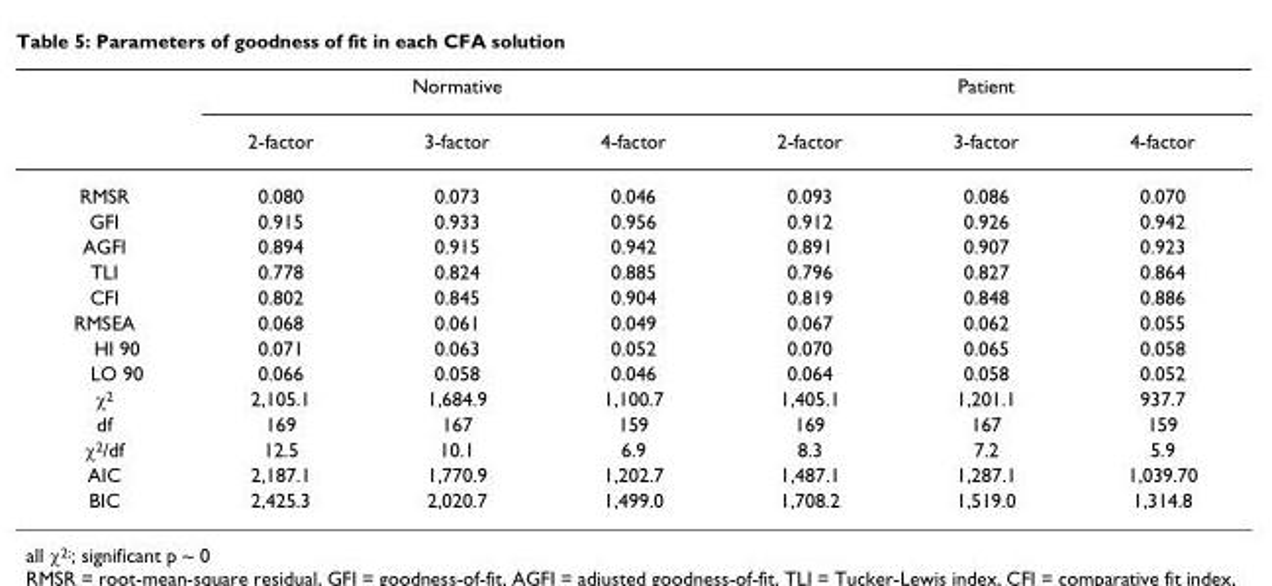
<table><thead><tr><td rowspan="2"></td><td colspan="3">Normative</td><td colspan="3">Patient</td></tr><tr><td>2-factor</td><td>3-factor</td><td>4-factor</td><td>2-factor</td><td>3-factor</td><td>4-factor</td></tr></thead><tbody><tr><td>RMSR</td><td>0.080</td><td>0.073</td><td>0.046</td><td>0.093</td><td>0.086</td><td>0.070</td></tr><tr><td>GFI</td><td>0.915</td><td>0.933</td><td>0.956</td><td>0.912</td><td>0.926</td><td>0.942</td></tr><tr><td>AGFI</td><td>0.894</td><td>0.915</td><td>0.942</td><td>0.891</td><td>0.907</td><td>0.923</td></tr><tr><td>TLI</td><td>0.778</td><td>0.824</td><td>0.885</td><td>0.796</td><td>0.827</td><td>0.864</td></tr><tr><td>CFI</td><td>0.802</td><td>0.845</td><td>0.904</td><td>0.819</td><td>0.848</td><td>0.886</td></tr><tr><td>RMSEA</td><td>0.068</td><td>0.061</td><td>0.049</td><td>0.067</td><td>0.062</td><td>0.055</td></tr><tr><td>HI 90</td><td>0.071</td><td>0.063</td><td>0.052</td><td>0.070</td><td>0.065</td><td>0.058</td></tr><tr><td>LO 90</td><td>0.066</td><td>0.058</td><td>0.046</td><td>0.064</td><td>0.058</td><td>0.052</td></tr><tr><td>χ<sup>2</sup></td><td>2,105.1</td><td>1,684.9</td><td>1,100.7</td><td>1,405.1</td><td>1,201.1</td><td>937.7</td></tr><tr><td>df</td><td>169</td><td>167</td><td>159</td><td>169</td><td>167</td><td>159</td></tr><tr><td>χ<sup>2</sup>/df</td><td>12.5</td><td>10.1</td><td>6.9</td><td>8.3</td><td>7.2</td><td>5.9</td></tr><tr><td>AIC</td><td>2,187.1</td><td>1,770.9</td><td>1,202.7</td><td>1,487.1</td><td>1,287.1</td><td>1,039.70</td></tr><tr><td>BIC</td><td>2,425.3</td><td>2,020.7</td><td>1,499.0</td><td>1,708.2</td><td>1,519.0</td><td>1,314.8</td></tr></tbody></table>